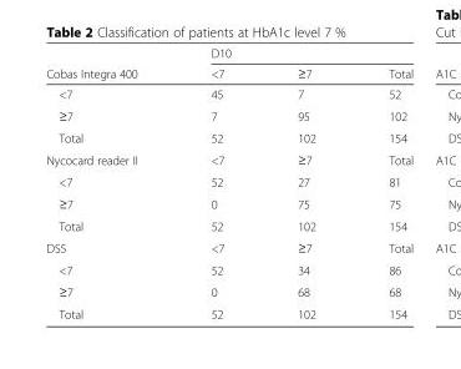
<table><thead><tr><td rowspan="2">Cobas Integra 400</td><td colspan="3">D10</td></tr><tr><td>&lt;7</td><td>≥7</td><td>Total</td></tr></thead><tbody><tr><td>&lt;7</td><td>45</td><td>7</td><td>52</td></tr><tr><td>≥7</td><td>7</td><td>95</td><td>102</td></tr><tr><td>Total</td><td>52</td><td>102</td><td>154</td></tr><tr><td>Nycocard reader II</td><td>&lt;7</td><td>≥7</td><td>Total</td></tr><tr><td>&lt;7</td><td>52</td><td>27</td><td>81</td></tr><tr><td>≥7</td><td>0</td><td>75</td><td>75</td></tr><tr><td>Total</td><td>52</td><td>102</td><td>154</td></tr><tr><td>DS5</td><td>&lt;7</td><td>≥7</td><td>Total</td></tr><tr><td>&lt;7</td><td>52</td><td>34</td><td>86</td></tr><tr><td>≥7</td><td>0</td><td>68</td><td>68</td></tr><tr><td>Total</td><td>52</td><td>102</td><td>154</td></tr></tbody></table>